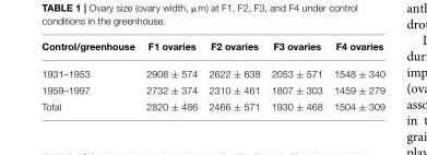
<table><thead><tr><td>Control/greenhouse</td><td>F1 ovaries</td><td>F2 ovaries</td><td>F3 ovaries</td><td>F4 ovaries</td></tr></thead><tbody><tr><td>1931–1953</td><td>2908 ± 574</td><td>2622 ± 638</td><td>2053 ± 571</td><td>1548 ± 340</td></tr><tr><td>1959–1997</td><td>2732 ± 374</td><td>2310 ± 461</td><td>1807 ± 303</td><td>1459 ± 279</td></tr><tr><td>Total</td><td>2820 ± 486</td><td>2466 ± 571</td><td>1930 ± 468</td><td>1504 ± 309</td></tr></tbody></table>